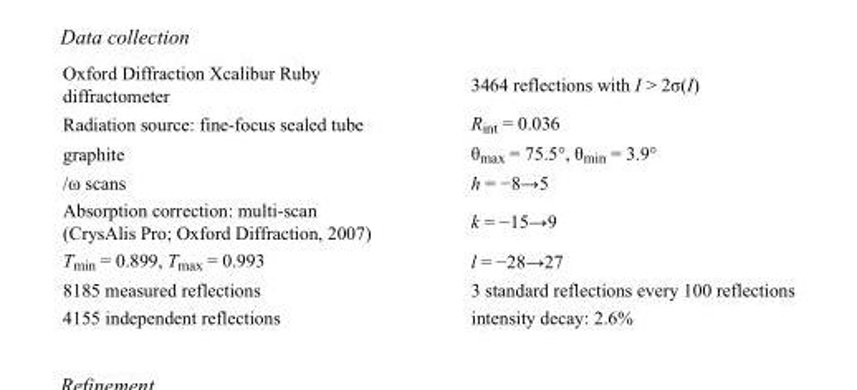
<table><tbody><tr><td>Oxford Diffraction Xcalibur Ruby diffractometer</td><td>3464 reflections with I &gt; 2σ(I)</td></tr><tr><td>Radiation source: fine-focus sealed tube</td><td>R<sub>int</sub> = 0.036</td></tr><tr><td>graphite</td><td>θ<sub>max</sub> = 75.5°, θ<sub>min</sub> = 3.9°</td></tr><tr><td>/ω scans</td><td>h = −8→5</td></tr><tr><td>Absorption correction: multi-scan (CrysAlis Pro; Oxford Diffraction, 2007)</td><td>k = −15→9</td></tr><tr><td>T<sub>min</sub> = 0.899, T<sub>max</sub> = 0.993</td><td>l = −28→27</td></tr><tr><td>8185 measured reflections</td><td>3 standard reflections every 100 reflections</td></tr><tr><td>4155 independent reflections</td><td>intensity decay: 2.6%</td></tr></tbody></table>